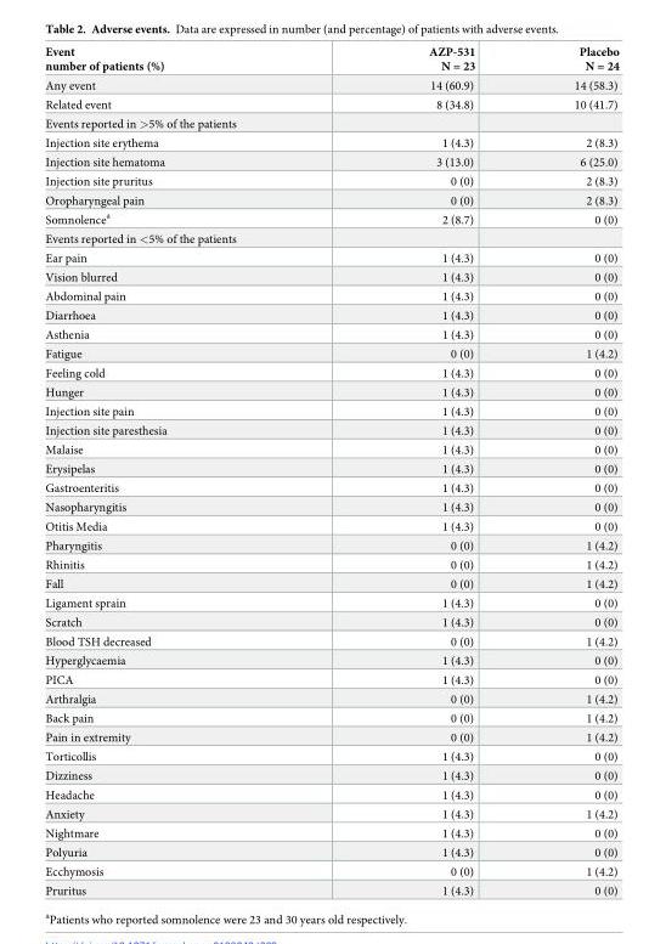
<table><thead><tr><td>Event number of patients (%)</td><td>AZP-531 N = 23</td><td>Placebo N = 24</td></tr></thead><tbody><tr><td>Any event</td><td>14 (60.9)</td><td>14 (58.3)</td></tr><tr><td>Related event</td><td>8 (34.8)</td><td>10 (41.7)</td></tr><tr><td colspan="3">Events reported in &gt;5% of the patients</td></tr><tr><td>Injection site erythema</td><td>1 (4.3)</td><td>2 (8.3)</td></tr><tr><td>Injection site hematoma</td><td>3 (13.0)</td><td>6 (25.0)</td></tr><tr><td>Injection site pruritus</td><td>0 (0)</td><td>2 (8.3)</td></tr><tr><td>Oropharyngeal pain</td><td>0 (0)</td><td>2 (8.3)</td></tr><tr><td>Somnolence<sup>a</sup></td><td>2 (8.7)</td><td>0 (0)</td></tr><tr><td colspan="3">Events reported in &lt;5% of the patients</td></tr><tr><td>Ear pain</td><td>1 (4.3)</td><td>0 (0)</td></tr><tr><td>Vision blurred</td><td>1 (4.3)</td><td>0 (0)</td></tr><tr><td>Abdominal pain</td><td>1 (4.3)</td><td>0 (0)</td></tr><tr><td>Diarrhoea</td><td>1 (4.3)</td><td>0 (0)</td></tr><tr><td>Asthenia</td><td>1 (4.3)</td><td>0 (0)</td></tr><tr><td>Fatigue</td><td>0 (0)</td><td>1 (4.2)</td></tr><tr><td>Feeling cold</td><td>1 (4.3)</td><td>0 (0)</td></tr><tr><td>Hunger</td><td>1 (4.3)</td><td>0 (0)</td></tr><tr><td>Injection site pain</td><td>1 (4.3)</td><td>0 (0)</td></tr><tr><td>Injection site paresthesia</td><td>1 (4.3)</td><td>0 (0)</td></tr><tr><td>Malaise</td><td>1 (4.3)</td><td>0 (0)</td></tr><tr><td>Erysipelas</td><td>1 (4.3)</td><td>0 (0)</td></tr><tr><td>Gastroenteritis</td><td>1 (4.3)</td><td>0 (0)</td></tr><tr><td>Nasopharyngitis</td><td>1 (4.3)</td><td>0 (0)</td></tr><tr><td>Otitis Media</td><td>1 (4.3)</td><td>0 (0)</td></tr><tr><td>Pharyngitis</td><td>0 (0)</td><td>1 (4.2)</td></tr><tr><td>Rhinitis</td><td>0 (0)</td><td>1 (4.2)</td></tr><tr><td>Fall</td><td>0 (0)</td><td>1 (4.2)</td></tr><tr><td>Ligament sprain</td><td>1 (4.3)</td><td>0 (0)</td></tr><tr><td>Scratch</td><td>1 (4.3)</td><td>0 (0)</td></tr><tr><td>Blood TSH decreased</td><td>0 (0)</td><td>1 (4.2)</td></tr><tr><td>Hyperglycaemia</td><td>1 (4.3)</td><td>0 (0)</td></tr><tr><td>PICA</td><td>1 (4.3)</td><td>0 (0)</td></tr><tr><td>Arthralgia</td><td>0 (0)</td><td>1 (4.2)</td></tr><tr><td>Back pain</td><td>0 (0)</td><td>1 (4.2)</td></tr><tr><td>Pain in extremity</td><td>0 (0)</td><td>1 (4.2)</td></tr><tr><td>Torticollis</td><td>1 (4.3)</td><td>0 (0)</td></tr><tr><td>Dizziness</td><td>1 (4.3)</td><td>0 (0)</td></tr><tr><td>Headache</td><td>1 (4.3)</td><td>0 (0)</td></tr><tr><td>Anxiety</td><td>1 (4.3)</td><td>1 (4.2)</td></tr><tr><td>Nightmare</td><td>1 (4.3)</td><td>0 (0)</td></tr><tr><td>Polyuria</td><td>1 (4.3)</td><td>0 (0)</td></tr><tr><td>Ecchymosis</td><td>0 (0)</td><td>1 (4.2)</td></tr><tr><td>Pruritus</td><td>1 (4.3)</td><td>0 (0)</td></tr></tbody></table>